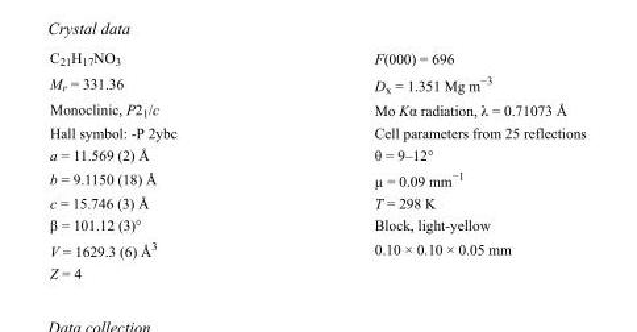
<table><tbody><tr><td>C<sub>21</sub>H<sub>17</sub>NO<sub>3</sub></td><td>F(000) = 696</td></tr><tr><td>M<sub>r</sub> = 331.36</td><td>D<sub>x</sub> = 1.351 Mg m<sup>−3</sup></td></tr><tr><td>Monoclinic, P2<sub>1</sub>/c</td><td>Mo Kα radiation, λ = 0.71073 Å</td></tr><tr><td>Hall symbol: -P 2ybc</td><td>Cell parameters from 25 reflections</td></tr><tr><td>a = 11.569 (2) Å</td><td>θ = 9–12°</td></tr><tr><td>b = 9.1150 (18) Å</td><td>µ = 0.09 mm<sup>−1</sup></td></tr><tr><td>c = 15.746 (3) Å</td><td>T = 298 K</td></tr><tr><td>β = 101.12 (3)°</td><td>Block, light-yellow</td></tr><tr><td>V = 1629.3 (6) Å<sup>3</sup></td><td>0.10 × 0.10 × 0.05 mm</td></tr><tr><td>Z = 4</td><td></td></tr></tbody></table>